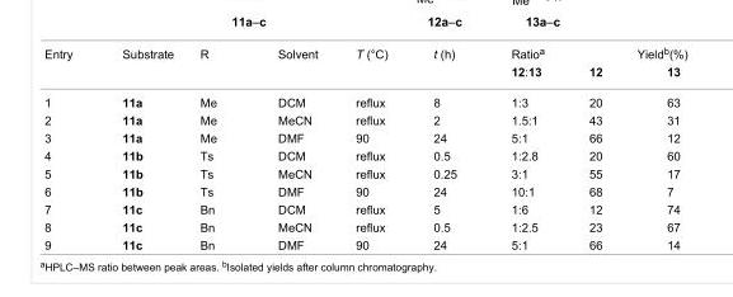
<table><tbody><tr><td rowspan="2">Entry</td><td rowspan="2">Substrate</td><td rowspan="2">R</td><td rowspan="2">Solvent</td><td rowspan="2">T (°C)</td><td rowspan="2">t (h)</td><td>Ratio<sup>a</sup></td><td colspan="2">Yield<sup>b</sup>(%)</td></tr><tr><td>12:13</td><td>12</td><td>13</td></tr><tr><td>1</td><td>11a</td><td>Me</td><td>DCM</td><td>reflux</td><td>8</td><td>1:3</td><td>20</td><td>63</td></tr><tr><td>2</td><td>11a</td><td>Me</td><td>MeCN</td><td>reflux</td><td>2</td><td>1.5:1</td><td>43</td><td>31</td></tr><tr><td>3</td><td>11a</td><td>Me</td><td>DMF</td><td>90</td><td>24</td><td>5:1</td><td>66</td><td>12</td></tr><tr><td>4</td><td>11b</td><td>Ts</td><td>DCM</td><td>reflux</td><td>0.5</td><td>1:2.8</td><td>20</td><td>60</td></tr><tr><td>5</td><td>11b</td><td>Ts</td><td>MeCN</td><td>reflux</td><td>0.25</td><td>3:1</td><td>55</td><td>17</td></tr><tr><td>6</td><td>11b</td><td>Ts</td><td>DMF</td><td>90</td><td>24</td><td>10:1</td><td>68</td><td>7</td></tr><tr><td>7</td><td>11c</td><td>Bn</td><td>DCM</td><td>reflux</td><td>5</td><td>1:6</td><td>12</td><td>74</td></tr><tr><td>8</td><td>11c</td><td>Bn</td><td>MeCN</td><td>reflux</td><td>0.5</td><td>1:2.5</td><td>23</td><td>67</td></tr><tr><td>9</td><td>11c</td><td>Bn</td><td>DMF</td><td>90</td><td>24</td><td>5:1</td><td>66</td><td>14</td></tr></tbody></table>